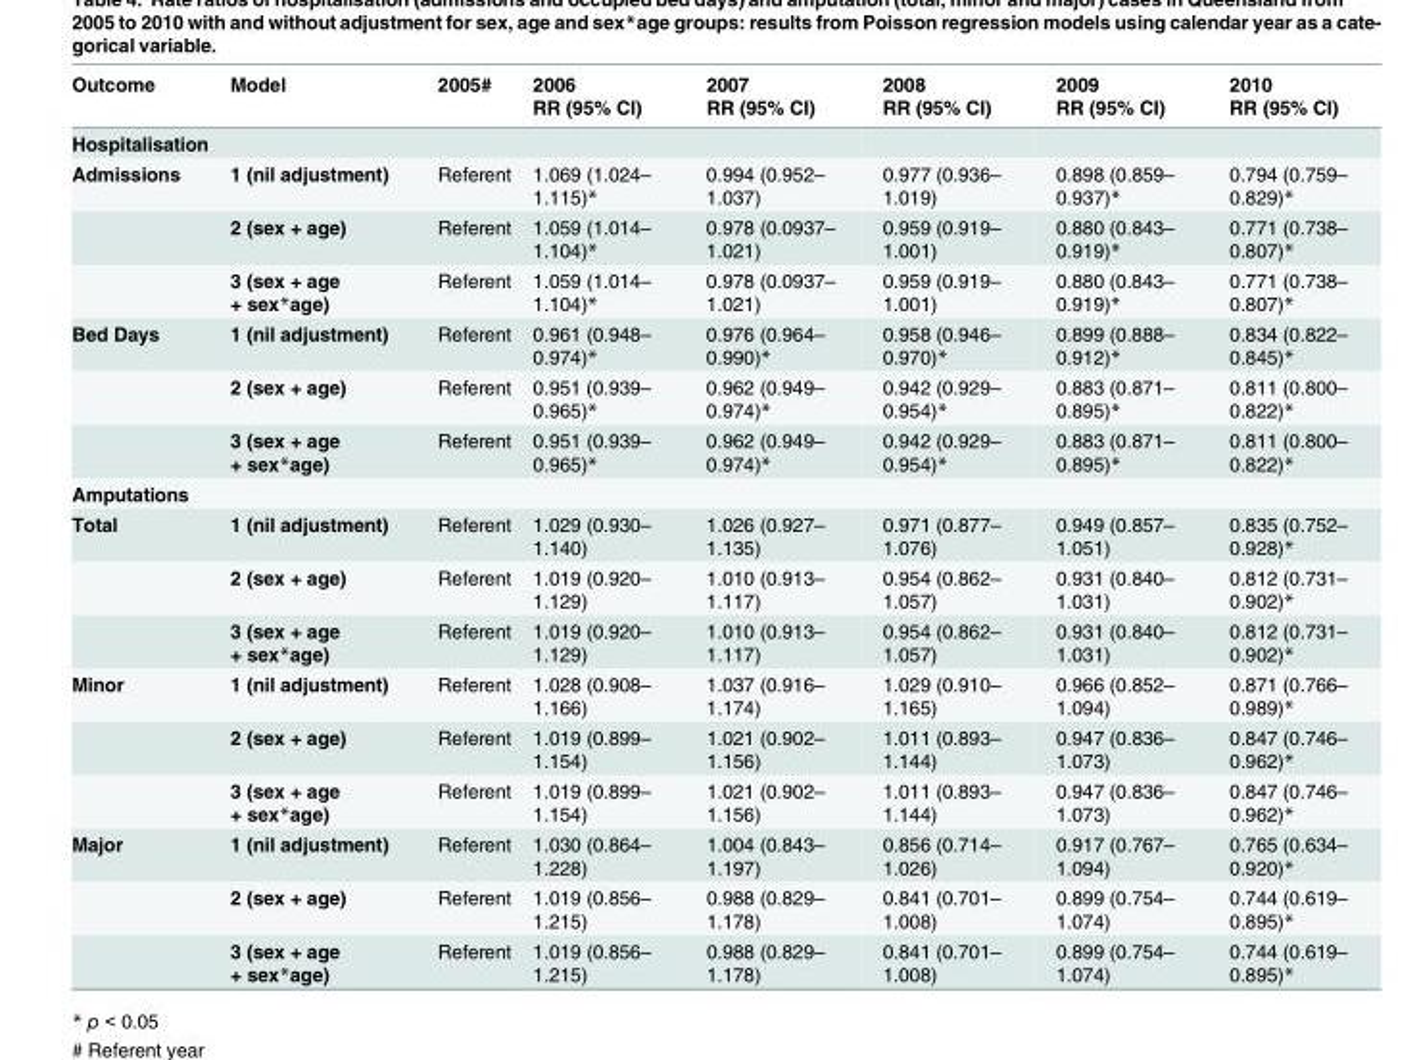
<table><thead><tr><td rowspan="2">Outcome</td><td rowspan="2">Model</td><td rowspan="2">2005#</td><td rowspan="2">2006 RR (95% CI)</td><td rowspan="2">2007 RR (95% CI)</td><td rowspan="2">2008 RR (95% CI)</td><td rowspan="2">2009 RR (95% CI)</td><td rowspan="2">2010 RR (95% CI)</td></tr><tr></tr></thead><tbody><tr><td colspan="8">Hospitalisation</td></tr><tr><td rowspan="3">Admissions</td><td>1 (nil adjustment)</td><td>Referent</td><td>1.069 (1.024– 1.115)*</td><td>0.994 (0.952– 1.037)</td><td>0.977 (0.936– 1.019)</td><td>0.898 (0.859– 0.937)*</td><td>0.794 (0.759– 0.829)*</td></tr><tr><td>2 (sex + age)</td><td>Referent</td><td>1.059 (1.014– 1.104)*</td><td>0.978 (0.0937– 1.021)</td><td>0.959 (0.919– 1.001)</td><td>0.880 (0.843– 0.919)*</td><td>0.771 (0.738– 0.807)*</td></tr><tr><td>3 (sex + age + sex*age)</td><td>Referent</td><td>1.059 (1.014– 1.104)*</td><td>0.978 (0.0937– 1.021)</td><td>0.959 (0.919– 1.001)</td><td>0.880 (0.843– 0.919)*</td><td>0.771 (0.738– 0.807)*</td></tr><tr><td rowspan="3">Bed Days</td><td>1 (nil adjustment)</td><td>Referent</td><td>0.961 (0.948– 0.974)*</td><td>0.976 (0.964– 0.990)*</td><td>0.958 (0.946– 0.970)*</td><td>0.899 (0.888– 0.912)*</td><td>0.834 (0.822– 0.845)*</td></tr><tr><td>2 (sex + age)</td><td>Referent</td><td>0.951 (0.939– 0.965)*</td><td>0.962 (0.949– 0.974)*</td><td>0.942 (0.929– 0.954)*</td><td>0.883 (0.871– 0.895)*</td><td>0.811 (0.800– 0.822)*</td></tr><tr><td>3 (sex + age + sex*age)</td><td>Referent</td><td>0.951 (0.939– 0.965)*</td><td>0.962 (0.949– 0.974)*</td><td>0.942 (0.929– 0.954)*</td><td>0.883 (0.871– 0.895)*</td><td>0.811 (0.800– 0.822)*</td></tr><tr><td colspan="8">Amputations</td></tr><tr><td rowspan="3">Total</td><td>1 (nil adjustment)</td><td>Referent</td><td>1.029 (0.930– 1.140)</td><td>1.026 (0.927– 1.135)</td><td>0.971 (0.877– 1.076)</td><td>0.949 (0.857– 1.051)</td><td>0.835 (0.752– 0.928)*</td></tr><tr><td>2 (sex + age)</td><td>Referent</td><td>1.019 (0.920– 1.129)</td><td>1.010 (0.913– 1.117)</td><td>0.954 (0.862– 1.057)</td><td>0.931 (0.840– 1.031)</td><td>0.812 (0.731– 0.902)*</td></tr><tr><td>3 (sex + age + sex*age)</td><td>Referent</td><td>1.019 (0.920– 1.129)</td><td>1.010 (0.913– 1.117)</td><td>0.954 (0.862– 1.057)</td><td>0.931 (0.840– 1.031)</td><td>0.812 (0.731– 0.902)*</td></tr><tr><td rowspan="3">Minor</td><td>1 (nil adjustment)</td><td>Referent</td><td>1.028 (0.908– 1.166)</td><td>1.037 (0.916– 1.174)</td><td>1.029 (0.910– 1.165)</td><td>0.966 (0.852– 1.094)</td><td>0.871 (0.766– 0.989)*</td></tr><tr><td>2 (sex + age)</td><td>Referent</td><td>1.019 (0.899– 1.154)</td><td>1.021 (0.902– 1.156)</td><td>1.011 (0.893– 1.144)</td><td>0.947 (0.836– 1.073)</td><td>0.847 (0.746– 0.962)*</td></tr><tr><td>3 (sex + age + sex*age)</td><td>Referent</td><td>1.019 (0.899– 1.154)</td><td>1.021 (0.902– 1.156)</td><td>1.011 (0.893– 1.144)</td><td>0.947 (0.836– 1.073)</td><td>0.847 (0.746– 0.962)*</td></tr><tr><td rowspan="3">Major</td><td>1 (nil adjustment)</td><td>Referent</td><td>1.030 (0.864– 1.228)</td><td>1.004 (0.843– 1.197)</td><td>0.856 (0.714– 1.026)</td><td>0.917 (0.767– 1.094)</td><td>0.765 (0.634– 0.920)*</td></tr><tr><td>2 (sex + age)</td><td>Referent</td><td>1.019 (0.856– 1.215)</td><td>0.988 (0.829– 1.178)</td><td>0.841 (0.701– 1.008)</td><td>0.899 (0.754– 1.074)</td><td>0.744 (0.619– 0.895)*</td></tr><tr><td>3 (sex + age + sex*age)</td><td>Referent</td><td>1.019 (0.856– 1.215)</td><td>0.988 (0.829– 1.178)</td><td>0.841 (0.701– 1.008)</td><td>0.899 (0.754– 1.074)</td><td>0.744 (0.619– 0.895)*</td></tr></tbody></table>